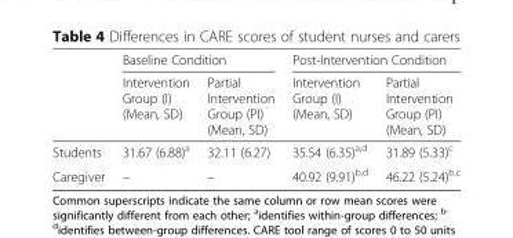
<table><thead><tr><td rowspan="2"></td><td colspan="2">Baseline Condition</td><td colspan="2">Post-Intervention Condition</td></tr><tr><td>Intervention Group (I) (Mean, SD)</td><td>Partial Intervention Group (PI) (Mean, SD)</td><td>Intervention Group (I) (Mean, SD)</td><td>Partial Intervention Group (PI) (Mean, SD)</td></tr></thead><tbody><tr><td>Students</td><td>31.67 (6.88)<sup>a</sup></td><td>32.11 (6.27)</td><td>35.54 (6.35)<sup>a,d</sup></td><td>31.89 (5.33)<sup>c</sup></td></tr><tr><td>Caregiver</td><td>–</td><td>–</td><td>40.92 (9.91)<sup>b,d</sup></td><td>46.22 (5.24)<sup>b,c</sup></td></tr></tbody></table>